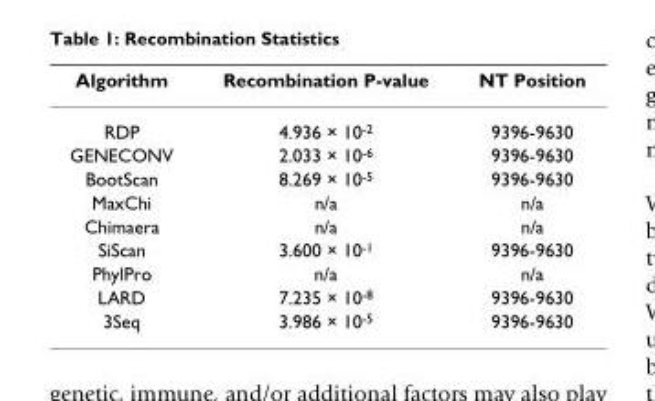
<table><thead><tr><td>Algorithm</td><td>Recombination P-value</td><td>NT Position</td></tr></thead><tbody><tr><td>RDP</td><td>4.936 × 10<sup>-2</sup></td><td>9396-9630</td></tr><tr><td>GENECONV</td><td>2.033 × 10<sup>-6</sup></td><td>9396-9630</td></tr><tr><td>BootScan</td><td>8.269 × 10<sup>-5</sup></td><td>9396-9630</td></tr><tr><td>MaxChi</td><td>n/a</td><td>n/a</td></tr><tr><td>Chimaera</td><td>n/a</td><td>n/a</td></tr><tr><td>SiScan</td><td>3.600 × 10<sup>-1</sup></td><td>9396-9630</td></tr><tr><td>PhylPro</td><td>n/a</td><td>n/a</td></tr><tr><td>LARD</td><td>7.235 × 10<sup>-8</sup></td><td>9396-9630</td></tr><tr><td>3Seq</td><td>3.986 × 10<sup>-5</sup></td><td>9396-9630</td></tr></tbody></table>